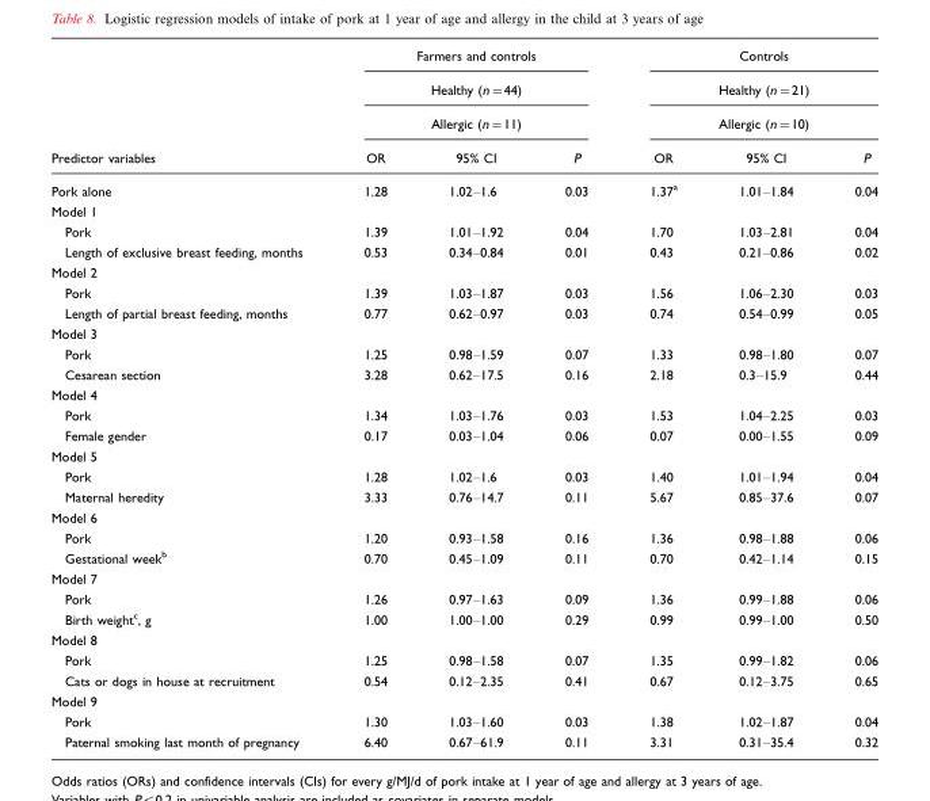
<table><thead><tr><td rowspan="4">Predictor variables</td><td rowspan="3" colspan="3">Farmers and controls Healthy (n=44) Allergic (n=11)</td><td rowspan="3" colspan="3">Controls Healthy (n=21) Allergic (n=10)</td></tr><tr></tr><tr></tr><tr><td>OR</td><td>95% CI</td><td>P</td><td>OR</td><td>95% CI</td><td>P</td></tr></thead><tbody><tr><td>Pork alone</td><td>1.28</td><td>1.02–1.6</td><td>0.03</td><td>1.37<sup>a</sup></td><td>1.01–1.84</td><td>0.04</td></tr><tr><td colspan="7">Model 1</td></tr><tr><td>Pork</td><td>1.39</td><td>1.01–1.92</td><td>0.04</td><td>1.70</td><td>1.03–2.81</td><td>0.04</td></tr><tr><td>Length of exclusive breast feeding, months</td><td>0.53</td><td>0.34–0.84</td><td>0.01</td><td>0.43</td><td>0.21–0.86</td><td>0.02</td></tr><tr><td colspan="7">Model 2</td></tr><tr><td>Pork</td><td>1.39</td><td>1.03–1.87</td><td>0.03</td><td>1.56</td><td>1.06–2.30</td><td>0.03</td></tr><tr><td>Length of partial breast feeding, months</td><td>0.77</td><td>0.62–0.97</td><td>0.03</td><td>0.74</td><td>0.54–0.99</td><td>0.05</td></tr><tr><td colspan="7">Model 3</td></tr><tr><td>Pork</td><td>1.25</td><td>0.98–1.59</td><td>0.07</td><td>1.33</td><td>0.98–1.80</td><td>0.07</td></tr><tr><td>Cesarean section</td><td>3.28</td><td>0.62–17.5</td><td>0.16</td><td>2.18</td><td>0.3–15.9</td><td>0.44</td></tr><tr><td colspan="7">Model 4</td></tr><tr><td>Pork</td><td>1.34</td><td>1.03–1.76</td><td>0.03</td><td>1.53</td><td>1.04–2.25</td><td>0.03</td></tr><tr><td>Female gender</td><td>0.17</td><td>0.03–1.04</td><td>0.06</td><td>0.07</td><td>0.00–1.55</td><td>0.09</td></tr><tr><td colspan="7">Model 5</td></tr><tr><td>Pork</td><td>1.28</td><td>1.02–1.6</td><td>0.03</td><td>1.40</td><td>1.01–1.94</td><td>0.04</td></tr><tr><td>Maternal heredity</td><td>3.33</td><td>0.76–14.7</td><td>0.11</td><td>5.67</td><td>0.85–37.6</td><td>0.07</td></tr><tr><td colspan="7">Model 6</td></tr><tr><td>Pork</td><td>1.20</td><td>0.93–1.58</td><td>0.16</td><td>1.36</td><td>0.98–1.88</td><td>0.06</td></tr><tr><td>Gestational week<sup>b</sup></td><td>0.70</td><td>0.45–1.09</td><td>0.11</td><td>0.70</td><td>0.42–1.14</td><td>0.15</td></tr><tr><td colspan="7">Model 7</td></tr><tr><td>Pork</td><td>1.26</td><td>0.97–1.63</td><td>0.09</td><td>1.36</td><td>0.99–1.88</td><td>0.06</td></tr><tr><td>Birth weight<sup>c</sup>, g</td><td>1.00</td><td>1.00–1.00</td><td>0.29</td><td>0.99</td><td>0.99–1.00</td><td>0.50</td></tr><tr><td colspan="7">Model 8</td></tr><tr><td>Pork</td><td>1.25</td><td>0.98–1.58</td><td>0.07</td><td>1.35</td><td>0.99–1.82</td><td>0.06</td></tr><tr><td>Cats or dogs in house at recruitment</td><td>0.54</td><td>0.12–2.35</td><td>0.41</td><td>0.67</td><td>0.12–3.75</td><td>0.65</td></tr><tr><td colspan="7">Model 9</td></tr><tr><td>Pork</td><td>1.30</td><td>1.03–1.60</td><td>0.03</td><td>1.38</td><td>1.02–1.87</td><td>0.04</td></tr><tr><td>Paternal smoking last month of pregnancy</td><td>6.40</td><td>0.67–61.9</td><td>0.11</td><td>3.31</td><td>0.31–35.4</td><td>0.32</td></tr></tbody></table>